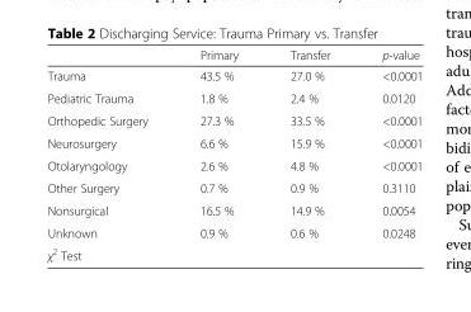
<table><thead><tr><td></td><td>Primary</td><td>Transfer</td><td>p-value</td></tr></thead><tbody><tr><td>Trauma</td><td>43.5 %</td><td>27.0 %</td><td>&lt;0.0001</td></tr><tr><td>Pediatric Trauma</td><td>1.8 %</td><td>2.4 %</td><td>0.0120</td></tr><tr><td>Orthopedic Surgery</td><td>27.3 %</td><td>33.5 %</td><td>&lt;0.0001</td></tr><tr><td>Neurosurgery</td><td>6.6 %</td><td>15.9 %</td><td>&lt;0.0001</td></tr><tr><td>Otolaryngology</td><td>2.6 %</td><td>4.8 %</td><td>&lt;0.0001</td></tr><tr><td>Other Surgery</td><td>0.7 %</td><td>0.9 %</td><td>0.3110</td></tr><tr><td>Nonsurgical</td><td>16.5 %</td><td>14.9 %</td><td>0.0054</td></tr><tr><td>Unknown</td><td>0.9 %</td><td>0.6 %</td><td>0.0248</td></tr><tr><td colspan="4">χ<sup>2</sup> Test</td></tr></tbody></table>